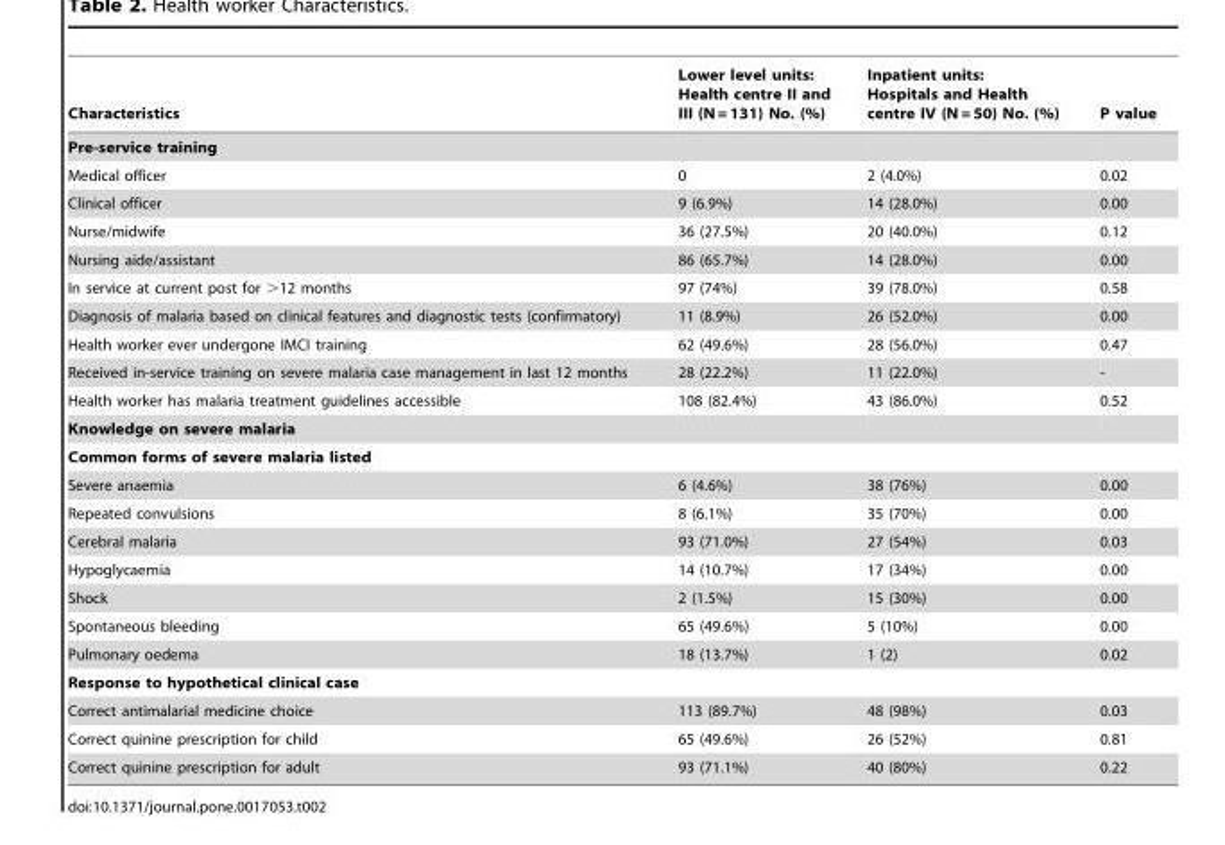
<table><thead><tr><td>Characteristics</td><td>Lower level units: Health centre II and III (N = 131) No. (%)</td><td>Inpatient units: Hospitals and Health centre IV (N = 50) No. (%)</td><td>P value</td></tr></thead><tbody><tr><td colspan="4">Pre-service training</td></tr><tr><td>Medical officer</td><td>0</td><td>2 (4.0%)</td><td>0.02</td></tr><tr><td>Clinical officer</td><td>9 (6.9%)</td><td>14 (28.0%)</td><td>0.00</td></tr><tr><td>Nurse/midwife</td><td>36 (27.5%)</td><td>20 (40.0%)</td><td>0.12</td></tr><tr><td>Nursing aide/assistant</td><td>86 (65.7%)</td><td>14 (28.0%)</td><td>0.00</td></tr><tr><td>In service at current post for &gt;12 months</td><td>97 (74%)</td><td>39 (78.0%)</td><td>0.58</td></tr><tr><td>Diagnosis of malaria based on clinical features and diagnostic tests (confirmatory)</td><td>11 (8.9%)</td><td>26 (52.0%)</td><td>0.00</td></tr><tr><td>Health worker ever undergone IMCI training</td><td>62 (49.6%)</td><td>28 (56.0%)</td><td>0.47</td></tr><tr><td>Received in-service training on severe malaria case management in last 12 months</td><td>28 (22.2%)</td><td>11 (22.0%)</td><td>-</td></tr><tr><td>Health worker has malaria treatment guidelines accessible</td><td>108 (82.4%)</td><td>43 (86.0%)</td><td>0.52</td></tr><tr><td colspan="4">Knowledge on severe malaria</td></tr><tr><td colspan="4">Common forms of severe malaria listed</td></tr><tr><td>Severe anaemia</td><td>6 (4.6%)</td><td>38 (76%)</td><td>0.00</td></tr><tr><td>Repeated convulsions</td><td>8 (6.1%)</td><td>35 (70%)</td><td>0.00</td></tr><tr><td>Cerebral malaria</td><td>93 (71.0%)</td><td>27 (54%)</td><td>0.03</td></tr><tr><td>Hypoglycaemia</td><td>14 (10.7%)</td><td>17 (34%)</td><td>0.00</td></tr><tr><td>Shock</td><td>2 (1.5%)</td><td>15 (30%)</td><td>0.00</td></tr><tr><td>Spontaneous bleeding</td><td>65 (49.6%)</td><td>5 (10%)</td><td>0.00</td></tr><tr><td>Pulmonary oedema</td><td>18 (13.7%)</td><td>1 (2)</td><td>0.02</td></tr><tr><td colspan="4">Response to hypothetical clinical case</td></tr><tr><td>Correct antimalarial medicine choice</td><td>113 (89.7%)</td><td>48 (98%)</td><td>0.03</td></tr><tr><td>Correct quinine prescription for child</td><td>65 (49.6%)</td><td>26 (52%)</td><td>0.81</td></tr><tr><td>Correct quinine prescription for adult</td><td>93 (71.1%)</td><td>40 (80%)</td><td>0.22</td></tr></tbody></table>